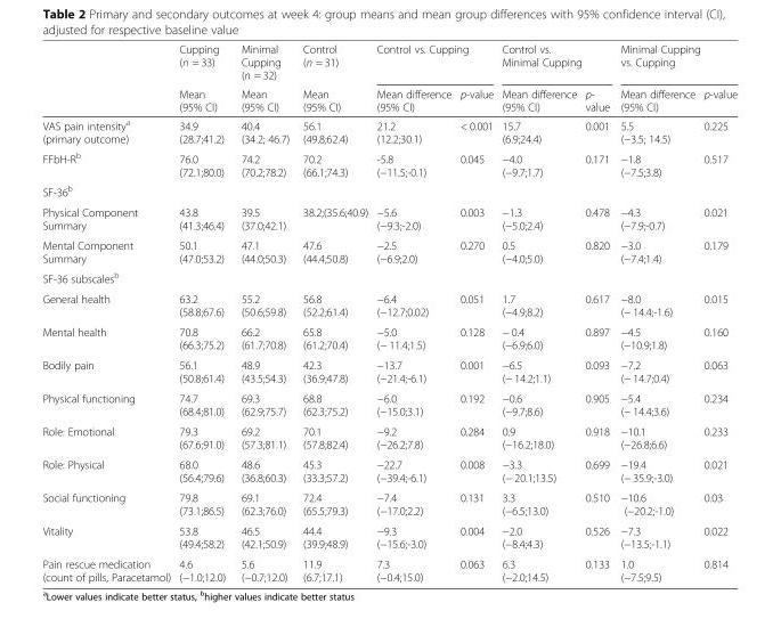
<table><thead><tr><td rowspan="2"></td><td rowspan="2">Cupping (n = 33) Mean (95% CI)</td><td rowspan="2">Minimal Cupping (n = 32) Mean (95% CI)</td><td rowspan="2">Control (n = 31) Mean (95% CI)</td><td colspan="2">Control vs. Cupping</td><td colspan="2">Control vs. Minimal Cupping</td><td colspan="2">Minimal Cupping vs. Cupping</td></tr><tr><td>Mean difference (95% CI)</td><td>p-value</td><td>Mean difference (95% CI)</td><td>p- value</td><td>Mean difference (95% CI)</td><td>p-value</td></tr></thead><tbody><tr><td>VAS pain intensity<sup>a</sup> (primary outcome)</td><td>34.9 (28.7;41.2)</td><td>40.4 (34.2; 46.7)</td><td>56.1 (49.8;62.4)</td><td>21.2 (12.2;30.1)</td><td>&lt; 0.001</td><td>15.7 (6.9;24.4)</td><td>0.001</td><td>5.5 (−3.5; 14.5)</td><td>0.225</td></tr><tr><td>FFbH-R<sup>b</sup></td><td>76.0 (72.1;80.0)</td><td>74.2 (70.2;78.2)</td><td>70.2 (66.1;74.3)</td><td>-5.8 (−11.5;-0.1)</td><td>0.045</td><td>−4.0 (−9.7;1.7)</td><td>0.171</td><td>−1.8 (−7.5;3.8)</td><td>0.517</td></tr><tr><td colspan="10">SF-36<sup>b</sup></td></tr><tr><td>Physical Component Summary</td><td>43.8 (41.3;46.4)</td><td>39.5 (37.0;42.1)</td><td>38.2;(35.6;40.9)</td><td>−5.6 (−9.3;-2.0)</td><td>0.003</td><td>−1.3 (−5.0;2.4)</td><td>0.478</td><td>−4.3 (−7.9;-0.7)</td><td>0.021</td></tr><tr><td>Mental Component Summary</td><td>50.1 (47.0;53.2)</td><td>47.1 (44.0;50.3)</td><td>47.6 (44.4;50.8)</td><td>−2.5 (−6.9;2.0)</td><td>0.270</td><td>0.5 (−4.0;5.0)</td><td>0.820</td><td>−3.0 (−7.4;1.4)</td><td>0.179</td></tr><tr><td colspan="10">SF-36 subscales<sup>b</sup></td></tr><tr><td>General health</td><td>63.2 (58.8;67.6)</td><td>55.2 (50.6;59.8)</td><td>56.8 (52.2;61.4)</td><td>−6.4 (−12.7;0.02)</td><td>0.051</td><td>1.7 (−4.9;8.2)</td><td>0.617</td><td>−8.0 (− 14.4;-1.6)</td><td>0.015</td></tr><tr><td>Mental health</td><td>70.8 (66.3;75.2)</td><td>66.2 (61.7;70.8)</td><td>65.8 (61.2;70.4)</td><td>−5.0 (− 11.4;1.5)</td><td>0.128</td><td>− 0.4 (−6.9;6.0)</td><td>0.897</td><td>−4.5 (−10.9;1.8)</td><td>0.160</td></tr><tr><td>Bodily pain</td><td>56.1 (50.8;61.4)</td><td>48.9 (43.5;54.3)</td><td>42.3 (36.9;47.8)</td><td>−13.7 (−21.4;-6.1)</td><td>0.001</td><td>−6.5 (− 14.2;1.1)</td><td>0.093</td><td>−7.2 (− 14.7;0.4)</td><td>0.063</td></tr><tr><td>Physical functioning</td><td>74.7 (68.4;81.0)</td><td>69.3 (62.9;75.7)</td><td>68.8 (62.3;75.2)</td><td>−6.0 (−15.0;3.1)</td><td>0.192</td><td>−0.6 (−9.7;8.6)</td><td>0.905</td><td>−5.4 (− 14.4;3.6)</td><td>0.234</td></tr><tr><td>Role: Emotional</td><td>79.3 (67.6;91.0)</td><td>69.2 (57.3;81.1)</td><td>70.1 (57.8;82.4)</td><td>−9.2 (−26.2;7.8)</td><td>0.284</td><td>0.9 (−16.2;18.0)</td><td>0.918</td><td>−10.1 (−26.8;6.6)</td><td>0.233</td></tr><tr><td>Role: Physical</td><td>68.0 (56.4;79.6)</td><td>48.6 (36.8;60.3)</td><td>45.3 (33.3;57.2)</td><td>−22.7 (−39.4;-6.1)</td><td>0.008</td><td>−3.3 (− 20.1;13.5)</td><td>0.699</td><td>−19.4 (− 35.9;-3.0)</td><td>0.021</td></tr><tr><td>Social functioning</td><td>79.8 (73.1;86.5)</td><td>69.1 (62.3;76.0)</td><td>72.4 (65.5;79.3)</td><td>−7.4 (−17.0;2.2)</td><td>0.131</td><td>3.3 (−6.5;13.0)</td><td>0.510</td><td>−10.6 (−20.2;-1.0)</td><td>0.03</td></tr><tr><td>Vitality</td><td>53.8 (49.4;58.2)</td><td>46.5 (42.1;50.9)</td><td>44.4 (39.9;48.9)</td><td>−9.3 (−15.6;-3.0)</td><td>0.004</td><td>−2.0 (−8.4;4.3)</td><td>0.526</td><td>−7.3 (−13.5;-1.1)</td><td>0.022</td></tr><tr><td>Pain rescue medication (count of pills, Paracetamol)</td><td>4.6 (−1.0;12.0)</td><td>5.6 (−0.7;12.0)</td><td>11.9 (6.7;17.1)</td><td>7.3 (−0.4;15.0)</td><td>0.063</td><td>6.3 (−2.0;14.5)</td><td>0.133</td><td>1.0 (−7.5;9.5)</td><td>0.814</td></tr></tbody></table>